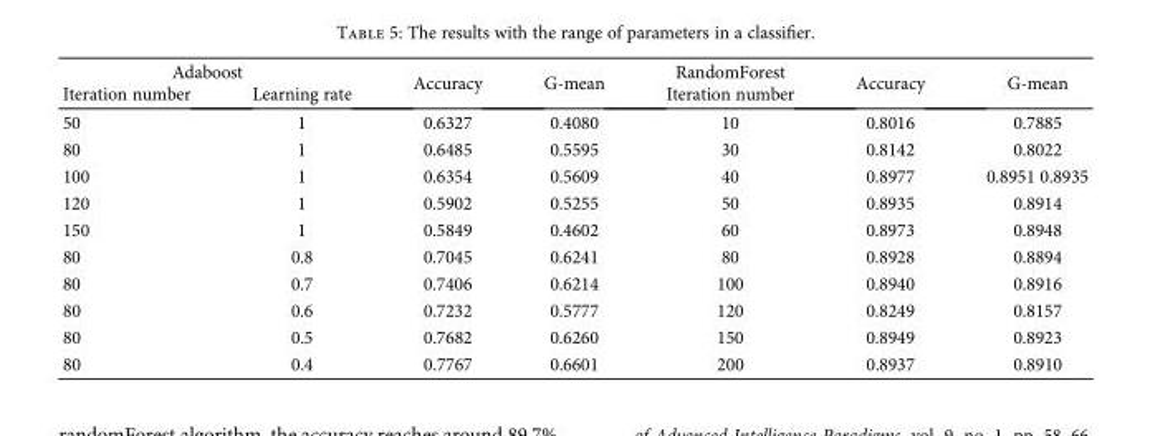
<table><thead><tr><td colspan="2">Adaboost</td><td rowspan="2">Accuracy</td><td rowspan="2">G-mean</td><td rowspan="2">RandomForest Iteration number</td><td rowspan="2">Accuracy</td><td rowspan="2">G-mean</td></tr><tr><td>Iteration number</td><td>Learning rate</td></tr></thead><tbody><tr><td>50</td><td>1</td><td>0.6327</td><td>0.4080</td><td>10</td><td>0.8016</td><td>0.7885</td></tr><tr><td>80</td><td>1</td><td>0.6485</td><td>0.5595</td><td>30</td><td>0.8142</td><td>0.8022</td></tr><tr><td>100</td><td>1</td><td>0.6354</td><td>0.5609</td><td>40</td><td>0.8977</td><td>0.8951 0.8935</td></tr><tr><td>120</td><td>1</td><td>0.5902</td><td>0.5255</td><td>50</td><td>0.8935</td><td>0.8914</td></tr><tr><td>150</td><td>1</td><td>0.5849</td><td>0.4602</td><td>60</td><td>0.8973</td><td>0.8948</td></tr><tr><td>80</td><td>0.8</td><td>0.7045</td><td>0.6241</td><td>80</td><td>0.8928</td><td>0.8894</td></tr><tr><td>80</td><td>0.7</td><td>0.7406</td><td>0.6214</td><td>100</td><td>0.8940</td><td>0.8916</td></tr><tr><td>80</td><td>0.6</td><td>0.7232</td><td>0.5777</td><td>120</td><td>0.8249</td><td>0.8157</td></tr><tr><td>80</td><td>0.5</td><td>0.7682</td><td>0.6260</td><td>150</td><td>0.8949</td><td>0.8923</td></tr><tr><td>80</td><td>0.4</td><td>0.7767</td><td>0.6601</td><td>200</td><td>0.8937</td><td>0.8910</td></tr></tbody></table>